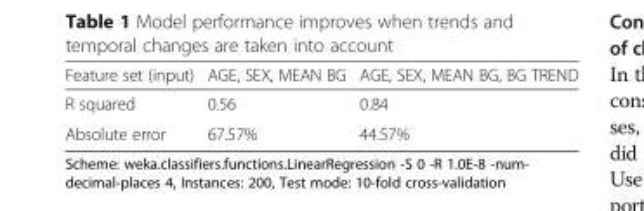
<table><thead><tr><td>Feature set (input)</td><td>AGE, SEX, MEAN BG</td><td>AGE, SEX, MEAN BG, BG TREND</td></tr></thead><tbody><tr><td>R squared</td><td>0.56</td><td>0.84</td></tr><tr><td>Absolute error</td><td>67.57%</td><td>44.57%</td></tr></tbody></table>